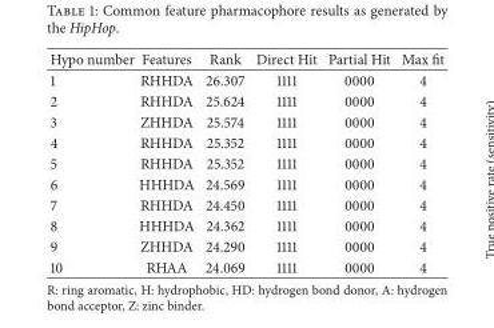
<table><thead><tr><td>Hypo number</td><td>Features</td><td>Rank</td><td>Direct Hit</td><td>Partial Hit</td><td>Max fit</td></tr></thead><tbody><tr><td>1</td><td>RHHDA</td><td>26.307</td><td>1111</td><td>0000</td><td>4</td></tr><tr><td>2</td><td>RHHDA</td><td>25.624</td><td>1111</td><td>0000</td><td>4</td></tr><tr><td>3</td><td>ZHHDA</td><td>25.574</td><td>1111</td><td>0000</td><td>4</td></tr><tr><td>4</td><td>RHHDA</td><td>25.352</td><td>1111</td><td>0000</td><td>4</td></tr><tr><td>5</td><td>RHHDA</td><td>25.352</td><td>1111</td><td>0000</td><td>4</td></tr><tr><td>6</td><td>HHHDA</td><td>24.569</td><td>1111</td><td>0000</td><td>4</td></tr><tr><td>7</td><td>RHHDA</td><td>24.450</td><td>1111</td><td>0000</td><td>4</td></tr><tr><td>8</td><td>HHHDA</td><td>24.362</td><td>1111</td><td>0000</td><td>4</td></tr><tr><td>9</td><td>ZHHDA</td><td>24.290</td><td>1111</td><td>0000</td><td>4</td></tr><tr><td>10</td><td>RHAA</td><td>24.069</td><td>1111</td><td>0000</td><td>4</td></tr></tbody></table>